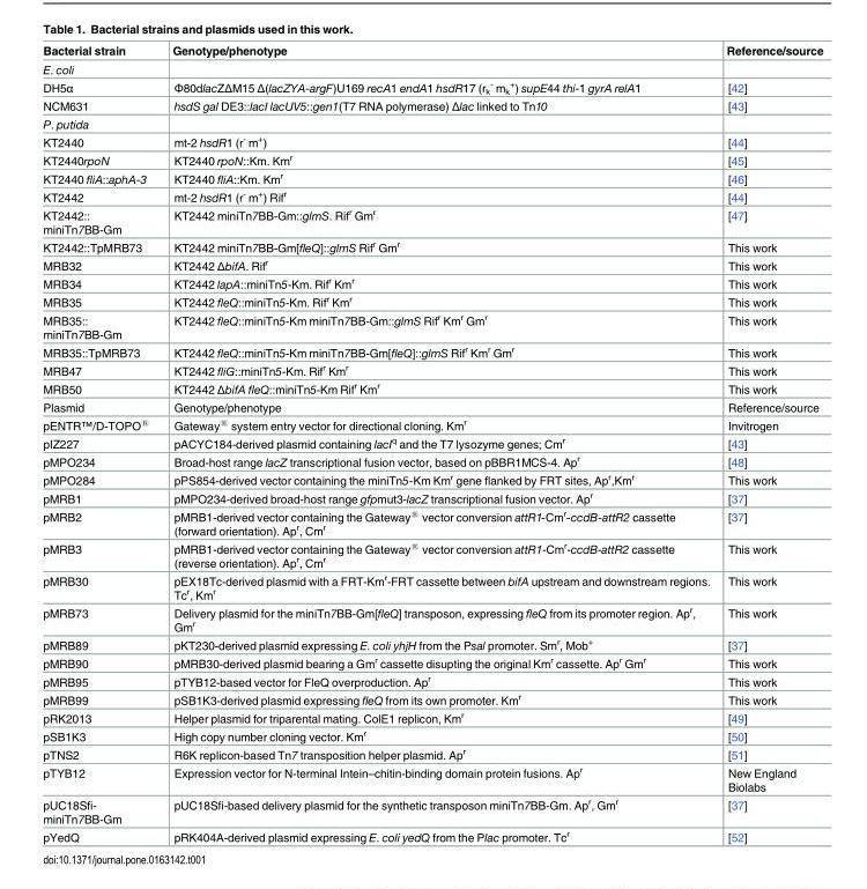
<table><thead><tr><td>Bacterial strain</td><td>Genotype/phenotype</td><td>Reference/source</td></tr></thead><tbody><tr><td colspan="3">E. coli</td></tr><tr><td>DH5α</td><td>Φ80dlacZΔM15 Δ(lacZYA-argF)U169 recA1 endA1 hsdR17 (r<sub>k</sub> <sup>-</sup> m<sub>k</sub> <sup>+</sup>) supE44 thi-1 gyrA relA1</td><td>[42]</td></tr><tr><td>NCM631</td><td>hsdS gal DE3::lacI lacUV5::gen1(T7 RNA polymerase) Δlac linked to Tn10</td><td>[43]</td></tr><tr><td colspan="3">P. putida</td></tr><tr><td>KT2440</td><td>mt-2 hsdR1 (r<sup>-</sup> m<sup>+</sup>)</td><td>[44]</td></tr><tr><td>KT2440rpoN</td><td>KT2440 rpoN::Km. Km<sup>r</sup></td><td>[45]</td></tr><tr><td>KT2440 fliA::aphA-3</td><td>KT2440 fliA::Km. Km<sup>r</sup></td><td>[46]</td></tr><tr><td>KT2442</td><td>mt-2 hsdR1 (r<sup>-</sup> m<sup>+</sup>) Rif<sup>r</sup></td><td>[44]</td></tr><tr><td>KT2442:: miniTn7BB-Gm</td><td>KT2442 miniTn7BB-Gm::glmS. Rif<sup>r</sup> Gm<sup>r</sup></td><td>[47]</td></tr><tr><td>KT2442::TpMRB73</td><td>KT2442 miniTn7BB-Gm[fleQ]::glmS Rif<sup>r</sup> Gm<sup>r</sup></td><td>This work</td></tr><tr><td>MRB32</td><td>KT2442 ΔbifA. Rif<sup>r</sup></td><td>This work</td></tr><tr><td>MRB34</td><td>KT2442 lapA::miniTn5-Km. Rif<sup>r</sup> Km<sup>r</sup></td><td>This work</td></tr><tr><td>MRB35</td><td>KT2442 fleQ::miniTn5-Km. Rif<sup>r</sup> Km<sup>r</sup></td><td>This work</td></tr><tr><td>MRB35:: miniTn7BB-Gm</td><td>KT2442 fleQ::miniTn5-Km miniTn7BB-Gm::glmS Rif<sup>r</sup> Km<sup>r</sup> Gm<sup>r</sup></td><td>This work</td></tr><tr><td>MRB35::TpMRB73</td><td>KT2442 fleQ::miniTn5-Km miniTn7BB-Gm[fleQ]::glmS Rif<sup>r</sup> Km<sup>r</sup> Gm<sup>r</sup></td><td>This work</td></tr><tr><td>MRB47</td><td>KT2442 fliG::miniTn5-Km. Rif<sup>r</sup> Km<sup>r</sup></td><td>This work</td></tr><tr><td>MRB50</td><td>KT2442 ΔbifA fleQ::miniTn5-Km Rif<sup>r</sup> Km<sup>r</sup></td><td>This work</td></tr><tr><td>Plasmid</td><td>Genotype/phenotype</td><td>Reference/source</td></tr><tr><td>pENTR<sup>™</sup>/D-TOPO<sup>®</sup></td><td>Gateway<sup>®</sup> system entry vector for directional cloning. Km<sup>r</sup></td><td>Invitrogen</td></tr><tr><td>pIZ227</td><td>pACYC184-derived plasmid containing lacI<sup>q</sup> and the T7 lysozyme genes; Cm<sup>r</sup></td><td>[43]</td></tr><tr><td>pMPO234</td><td>Broad-host range lacZ transcriptional fusion vector, based on pBBR1MCS-4. Ap<sup>r</sup></td><td>[48]</td></tr><tr><td>pMPO284</td><td>pPS854-derived vector containing the miniTn5-Km Km<sup>r</sup> gene flanked by FRT sites, Ap<sup>r</sup>,Km<sup>r</sup></td><td>This work</td></tr><tr><td>pMRB1</td><td>pMPO234-derived broad-host range gfpmut3-lacZ transcriptional fusion vector. Ap<sup>r</sup></td><td>[37]</td></tr><tr><td>pMRB2</td><td>pMRB1-derived vector containing the Gateway<sup>®</sup> vector conversion attR1-Cm<sup>r</sup>-ccdB-attR2 cassette (forward orientation). Ap<sup>r</sup>, Cm<sup>r</sup></td><td>[37]</td></tr><tr><td>pMRB3</td><td>pMRB1-derived vector containing the Gateway<sup>®</sup> vector conversion attR1-Cm<sup>r</sup>-ccdB-attR2 cassette (reverse orientation). Ap<sup>r</sup>, Cm<sup>r</sup></td><td>This work</td></tr><tr><td>pMRB30</td><td>pEX18Tc-derived plasmid with a FRT-Km<sup>r</sup>-FRT cassette between bifA upstream and downstream regions. Tc<sup>r</sup>, Km<sup>r</sup></td><td>This work</td></tr><tr><td>pMRB73</td><td>Delivery plasmid for the miniTn7BB-Gm[fleQ] transposon, expressing fleQ from its promoter region. Ap<sup>r</sup>, Gm<sup>r</sup></td><td>This work</td></tr><tr><td>pMRB89</td><td>pKT230-derived plasmid expressing E. coli yhjH from the Psal promoter. Sm<sup>r</sup>, Mob<sup>+</sup></td><td>[37]</td></tr><tr><td>pMRB90</td><td>pMRB30-derived plasmid bearing a Gm<sup>r</sup> cassette disupting the original Km<sup>r</sup> cassette. Ap<sup>r</sup> Gm<sup>r</sup></td><td>This work</td></tr><tr><td>pMRB95</td><td>pTYB12-based vector for FleQ overproduction. Ap<sup>r</sup></td><td>This work</td></tr><tr><td>pMRB99</td><td>pSB1K3-derived plasmid expressing fleQ from its own promoter. Km<sup>r</sup></td><td>This work</td></tr><tr><td>pRK2013</td><td>Helper plasmid for triparental mating. ColE1 replicon, Km<sup>r</sup></td><td>[49]</td></tr><tr><td>pSB1K3</td><td>High copy number cloning vector. Km<sup>r</sup></td><td>[50]</td></tr><tr><td>pTNS2</td><td>R6K replicon-based Tn7 transposition helper plasmid. Ap<sup>r</sup></td><td>[51]</td></tr><tr><td>pTYB12</td><td>Expression vector for N-terminal Intein–chitin-binding domain protein fusions. Ap<sup>r</sup></td><td>New England Biolabs</td></tr><tr><td>pUC18Sfi- miniTn7BB-Gm</td><td>pUC18Sfi-based delivery plasmid for the synthetic transposon miniTn7BB-Gm. Ap<sup>r</sup>, Gm<sup>r</sup></td><td>[37]</td></tr><tr><td>pYedQ</td><td>pRK404A-derived plasmid expressing E. coli yedQ from the Plac promoter. Tc<sup>r</sup></td><td>[52]</td></tr></tbody></table>